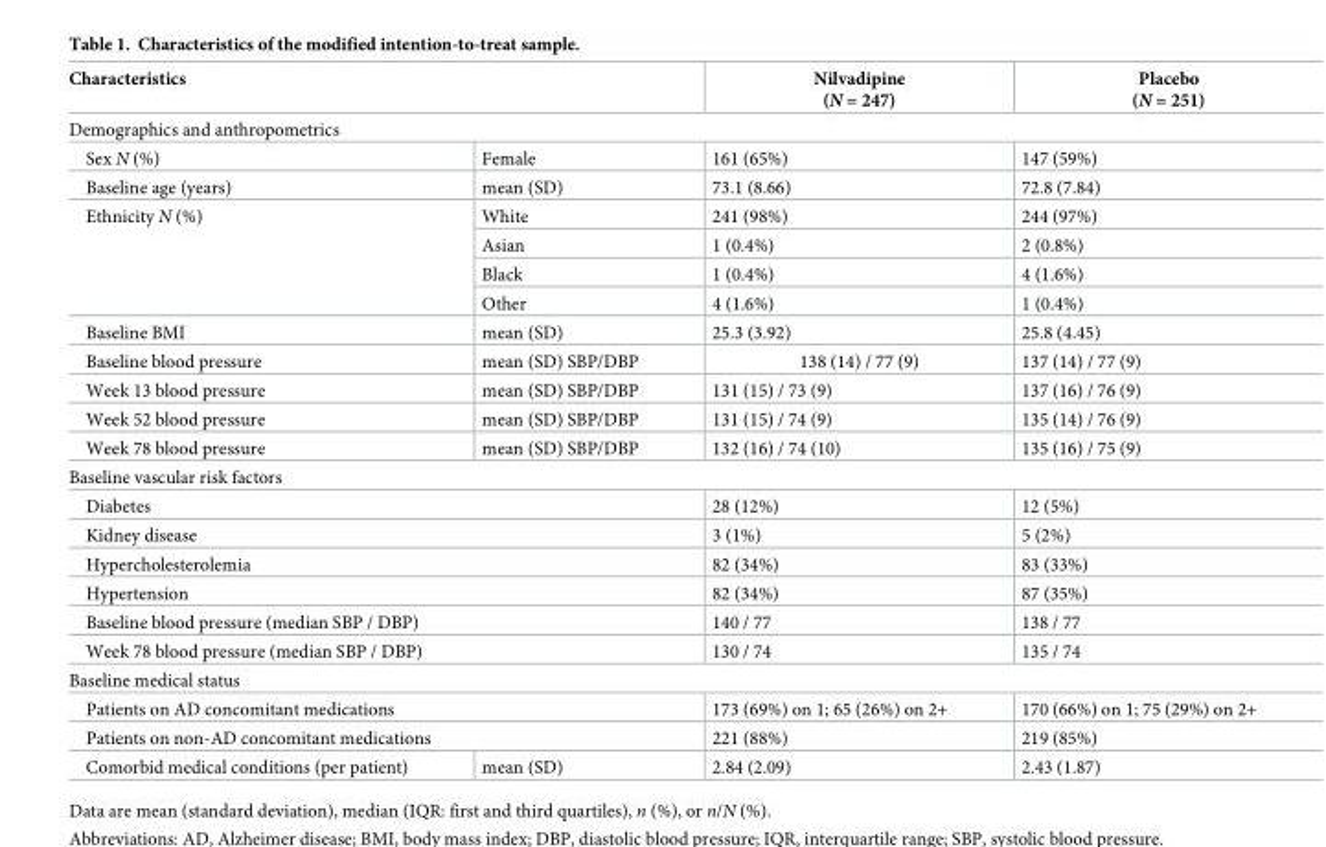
<table><thead><tr><td colspan="2">Characteristics</td><td>Nilvadipine (N = 247)</td><td>Placebo (N = 251)</td></tr><tr><td colspan="4">Demographics and anthropometrics</td></tr><tr><td>Sex N (%)</td><td>Female</td><td>161 (65%)</td><td>147 (59%)</td></tr></thead><tbody><tr><td>Baseline age (years)</td><td>mean (SD)</td><td>73.1 (8.66)</td><td>72.8 (7.84)</td></tr><tr><td rowspan="4">Ethnicity N (%)</td><td>White</td><td>241 (98%)</td><td>244 (97%)</td></tr><tr><td>Asian</td><td>1 (0.4%)</td><td>2 (0.8%)</td></tr><tr><td>Black</td><td>1 (0.4%)</td><td>4 (1.6%)</td></tr><tr><td>Other</td><td>4 (1.6%)</td><td>1 (0.4%)</td></tr><tr><td>Baseline BMI</td><td>mean (SD)</td><td>25.3 (3.92)</td><td>25.8 (4.45)</td></tr><tr><td>Baseline blood pressure</td><td>mean (SD) SBP/DBP</td><td>138 (14) / 77 (9)</td><td>137 (14) / 77 (9)</td></tr><tr><td>Week 13 blood pressure</td><td>mean (SD) SBP/DBP</td><td>131 (15) / 73 (9)</td><td>137 (16) / 76 (9)</td></tr><tr><td>Week 52 blood pressure</td><td>mean (SD) SBP/DBP</td><td>131 (15) / 74 (9)</td><td>135 (14) / 76 (9)</td></tr><tr><td>Week 78 blood pressure</td><td>mean (SD) SBP/DBP</td><td>132 (16) / 74 (10)</td><td>135 (16) / 75 (9)</td></tr><tr><td colspan="4">Baseline vascular risk factors</td></tr><tr><td colspan="2">Diabetes</td><td>28 (12%)</td><td>12 (5%)</td></tr><tr><td colspan="2">Kidney disease</td><td>3 (1%)</td><td>5 (2%)</td></tr><tr><td colspan="2">Hypercholesterolemia</td><td>82 (34%)</td><td>83 (33%)</td></tr><tr><td colspan="2">Hypertension</td><td>82 (34%)</td><td>87 (35%)</td></tr><tr><td colspan="2">Baseline blood pressure (median SBP / DBP)</td><td>140 / 77</td><td>138 / 77</td></tr><tr><td colspan="2">Week 78 blood pressure (median SBP / DBP)</td><td>130 / 74</td><td>135 / 74</td></tr><tr><td colspan="4">Baseline medical status</td></tr><tr><td colspan="2">Patients on AD concomitant medications</td><td>173 (69%) on 1; 65 (26%) on 2+</td><td>170 (66%) on 1; 75 (29%) on 2+</td></tr><tr><td colspan="2">Patients on non-AD concomitant medications</td><td>221 (88%)</td><td>219 (85%)</td></tr><tr><td>Comorbid medical conditions (per patient)</td><td>mean (SD)</td><td>2.84 (2.09)</td><td>2.43 (1.87)</td></tr></tbody></table>